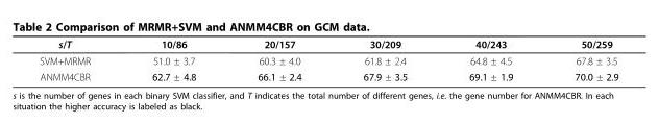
<table><thead><tr><td>s/T</td><td>10/86</td><td>20/157</td><td>30/209</td><td>40/243</td><td>50/259</td></tr></thead><tbody><tr><td>SVM+MRMR</td><td>51.0 ± 3.7</td><td>60.3 ± 4.0</td><td>61.8 ± 2.4</td><td>64.8 ± 4.5</td><td>67.8 ± 3.5</td></tr><tr><td>ANMM4CBR</td><td>62.7 ± 4.8</td><td>66.1 ± 2.4</td><td>67.9 ± 3.5</td><td>69.1 ± 1.9</td><td>70.0 ± 2.9</td></tr></tbody></table>